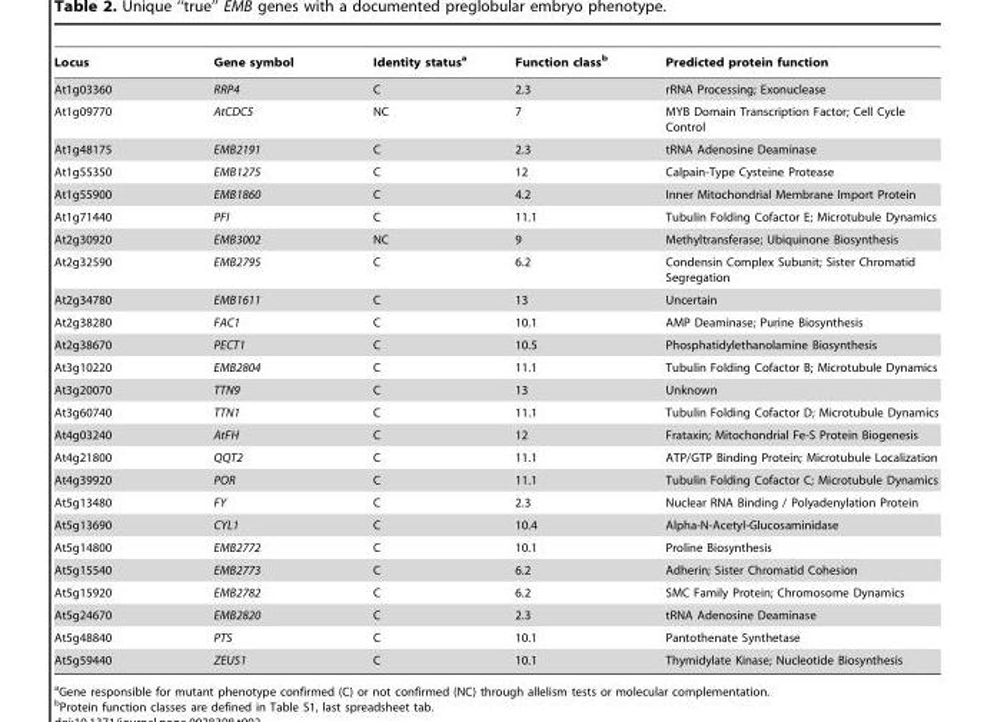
<table><thead><tr><td>Locus</td><td>Gene symbol</td><td>Identity status<sup>a</sup></td><td>Function class<sup>b</sup></td><td>Predicted protein function</td></tr></thead><tbody><tr><td>At1g03360</td><td>RRP4</td><td>C</td><td>2.3</td><td>rRNA Processing; Exonuclease</td></tr><tr><td>At1g09770</td><td>AtCDC5</td><td>NC</td><td>7</td><td>MYB Domain Transcription Factor; Cell Cycle Control</td></tr><tr><td>At1g48175</td><td>EMB2191</td><td>C</td><td>2.3</td><td>tRNA Adenosine Deaminase</td></tr><tr><td>At1g55350</td><td>EMB1275</td><td>C</td><td>12</td><td>Calpain-Type Cysteine Protease</td></tr><tr><td>At1g55900</td><td>EMB1860</td><td>C</td><td>4.2</td><td>Inner Mitochondrial Membrane Import Protein</td></tr><tr><td>At1g71440</td><td>PFI</td><td>C</td><td>11.1</td><td>Tubulin Folding Cofactor E; Microtubule Dynamics</td></tr><tr><td>At2g30920</td><td>EMB3002</td><td>NC</td><td>9</td><td>Methyltransferase; Ubiquinone Biosynthesis</td></tr><tr><td>At2g32590</td><td>EMB2795</td><td>C</td><td>6.2</td><td>Condensin Complex Subunit; Sister Chromatid Segregation</td></tr><tr><td>At2g34780</td><td>EMB1611</td><td>C</td><td>13</td><td>Uncertain</td></tr><tr><td>At2g38280</td><td>FAC1</td><td>C</td><td>10.1</td><td>AMP Deaminase; Purine Biosynthesis</td></tr><tr><td>At2g38670</td><td>PECT1</td><td>C</td><td>10.5</td><td>Phosphatidylethanolamine Biosynthesis</td></tr><tr><td>At3g10220</td><td>EMB2804</td><td>C</td><td>11.1</td><td>Tubulin Folding Cofactor B; Microtubule Dynamics</td></tr><tr><td>At3g20070</td><td>TTN9</td><td>C</td><td>13</td><td>Unknown</td></tr><tr><td>At3g60740</td><td>TTN1</td><td>C</td><td>11.1</td><td>Tubulin Folding Cofactor D; Microtubule Dynamics</td></tr><tr><td>At4g03240</td><td>AtFH</td><td>C</td><td>12</td><td>Frataxin; Mitochondrial Fe-S Protein Biogenesis</td></tr><tr><td>At4g21800</td><td>QQT2</td><td>C</td><td>11.1</td><td>ATP/GTP Binding Protein; Microtubule Localization</td></tr><tr><td>At4g39920</td><td>POR</td><td>C</td><td>11.1</td><td>Tubulin Folding Cofactor C; Microtubule Dynamics</td></tr><tr><td>At5g13480</td><td>FY</td><td>C</td><td>2.3</td><td>Nuclear RNA Binding / Polyadenylation Protein</td></tr><tr><td>At5g13690</td><td>CYL1</td><td>C</td><td>10.4</td><td>Alpha-N-Acetyl-Glucosaminidase</td></tr><tr><td>At5g14800</td><td>EMB2772</td><td>C</td><td>10.1</td><td>Proline Biosynthesis</td></tr><tr><td>At5g15540</td><td>EMB2773</td><td>C</td><td>6.2</td><td>Adherin; Sister Chromatid Cohesion</td></tr><tr><td>At5g15920</td><td>EMB2782</td><td>C</td><td>6.2</td><td>SMC Family Protein; Chromosome Dynamics</td></tr><tr><td>At5g24670</td><td>EMB2820</td><td>C</td><td>2.3</td><td>tRNA Adenosine Deaminase</td></tr><tr><td>At5g48840</td><td>PTS</td><td>C</td><td>10.1</td><td>Pantothenate Synthetase</td></tr><tr><td>At5g59440</td><td>ZEUS1</td><td>C</td><td>10.1</td><td>Thymidylate Kinase; Nucleotide Biosynthesis</td></tr></tbody></table>